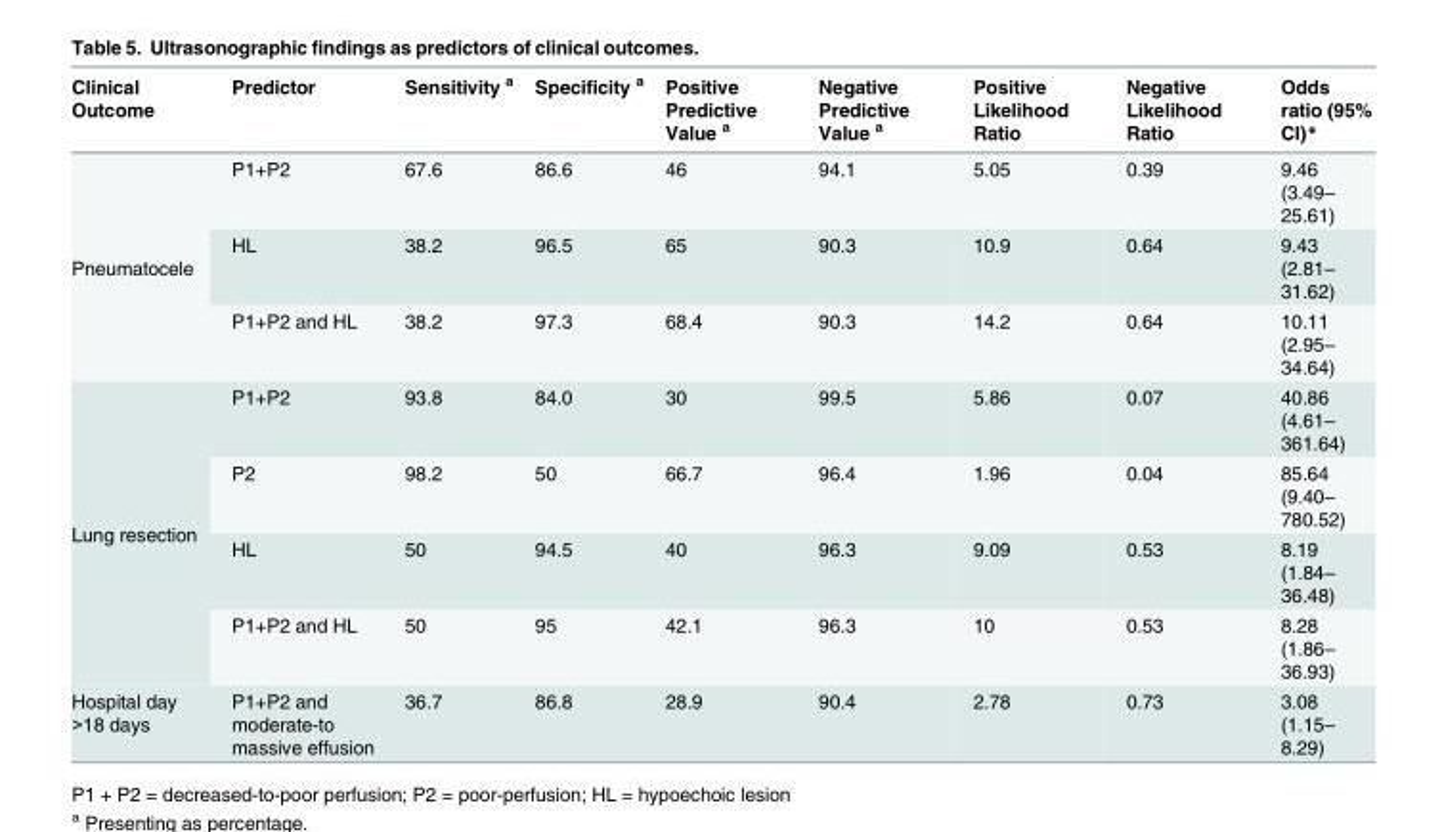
<table><thead><tr><td>Clinical Outcome</td><td>Predictor</td><td>Sensitivity <sup>a</sup></td><td>Specificity <sup>a</sup></td><td>Positive Predictive Value <sup>a</sup></td><td>Negative Predictive Value <sup>a</sup></td><td>Positive Likelihood Ratio</td><td>Negative Likelihood Ratio</td><td>Odds ratio (95% CI)*</td></tr></thead><tbody><tr><td rowspan="3">Pneumatocele</td><td>P1+P2</td><td>67.6</td><td>86.6</td><td>46</td><td>94.1</td><td>5.05</td><td>0.39</td><td>9.46 (3.49– 25.61)</td></tr><tr><td>HL</td><td>38.2</td><td>96.5</td><td>65</td><td>90.3</td><td>10.9</td><td>0.64</td><td>9.43 (2.81– 31.62)</td></tr><tr><td>P1+P2 and HL</td><td>38.2</td><td>97.3</td><td>68.4</td><td>90.3</td><td>14.2</td><td>0.64</td><td>10.11 (2.95– 34.64)</td></tr><tr><td rowspan="4">Lung resection</td><td>P1+P2</td><td>93.8</td><td>84.0</td><td>30</td><td>99.5</td><td>5.86</td><td>0.07</td><td>40.86 (4.61– 361.64)</td></tr><tr><td>P2</td><td>98.2</td><td>50</td><td>66.7</td><td>96.4</td><td>1.96</td><td>0.04</td><td>85.64 (9.40– 780.52)</td></tr><tr><td>HL</td><td>50</td><td>94.5</td><td>40</td><td>96.3</td><td>9.09</td><td>0.53</td><td>8.19 (1.84– 36.48)</td></tr><tr><td>P1+P2 and HL</td><td>50</td><td>95</td><td>42.1</td><td>96.3</td><td>10</td><td>0.53</td><td>8.28 (1.86– 36.93)</td></tr><tr><td>Hospital day &gt;18 days</td><td>P1+P2 and moderate-to massive effusion</td><td>36.7</td><td>86.8</td><td>28.9</td><td>90.4</td><td>2.78</td><td>0.73</td><td>3.08 (1.15– 8.29)</td></tr></tbody></table>